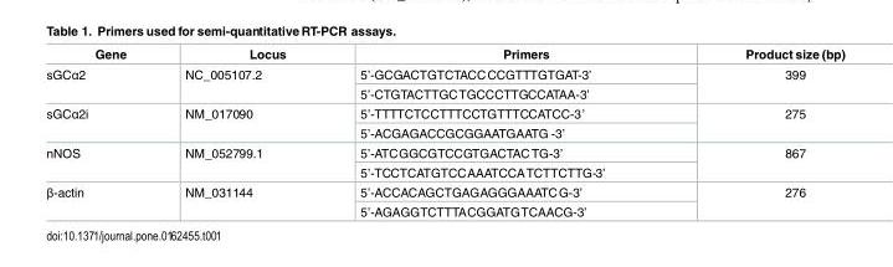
<table><thead><tr><td>Gene</td><td>Locus</td><td>Primers</td><td>Product size (bp)</td></tr></thead><tbody><tr><td rowspan="2">sGCα2</td><td rowspan="2">NC_005107.2</td><td>5’-GCGACTGTCTACCCCGTTTGTGAT-3’</td><td rowspan="2">399</td></tr><tr><td>5’-CTGTACTTGCTGCCCTTGCCATAA-3’</td></tr><tr><td rowspan="2">sGCα2i</td><td rowspan="2">NM_017090</td><td>5’-TTTTCTCCTTTCCTGTTTCCATCC-3’</td><td rowspan="2">275</td></tr><tr><td>5’-ACGAGACCGCGGAATGAATG -3’</td></tr><tr><td rowspan="2">nNOS</td><td rowspan="2">NM_052799.1</td><td>5’-ATCGGCGTCCGTGACTACTG-3’</td><td rowspan="2">867</td></tr><tr><td>5’-TCCTCATGTCCAAATCCATCTTCTTG-3’</td></tr><tr><td rowspan="2">β-actin</td><td rowspan="2">NM_031144</td><td>5’-ACCACAGCTGAGAGGGAAATCG-3’</td><td rowspan="2">276</td></tr><tr><td>5’-AGAGGTCTTTACGGATGTCAACG-3’</td></tr></tbody></table>